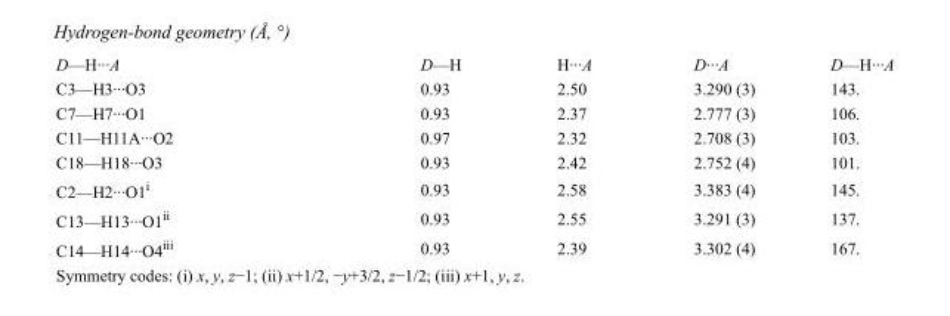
<table><tbody><tr><td>D—H···A</td><td>D—H</td><td>H···A</td><td>D···A</td><td>D—H···A</td></tr><tr><td>C3—H3···O3</td><td>0.93</td><td>2.50</td><td>3.290 (3)</td><td>143.</td></tr><tr><td>C7—H7···O1</td><td>0.93</td><td>2.37</td><td>2.777 (3)</td><td>106.</td></tr><tr><td>C11—H11A···O2</td><td>0.97</td><td>2.32</td><td>2.708 (3)</td><td>103.</td></tr><tr><td>C18—H18···O3</td><td>0.93</td><td>2.42</td><td>2.752 (4)</td><td>101.</td></tr><tr><td>C2—H2···O1<sup>i</sup></td><td>0.93</td><td>2.58</td><td>3.383 (4)</td><td>145.</td></tr><tr><td>C13—H13···O1<sup>ii</sup></td><td>0.93</td><td>2.55</td><td>3.291 (3)</td><td>137.</td></tr><tr><td>C14—H14···O4<sup>iii</sup></td><td>0.93</td><td>2.39</td><td>3.302 (4)</td><td>167.</td></tr></tbody></table>